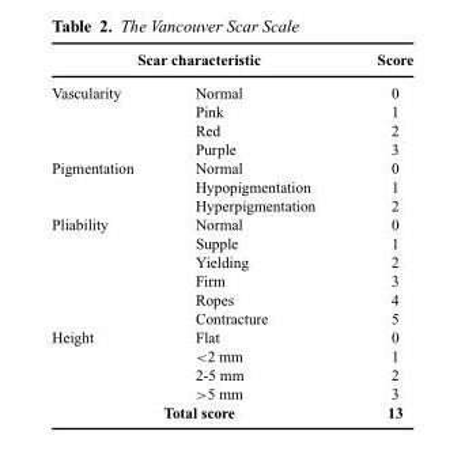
<table><thead><tr><td></td><td>Scar characteristic</td><td>Score</td></tr></thead><tbody><tr><td rowspan="4">Vascularity</td><td>Normal</td><td>0</td></tr><tr><td>Pink</td><td>1</td></tr><tr><td>Red</td><td>2</td></tr><tr><td>Purple</td><td>3</td></tr><tr><td rowspan="3">Pigmentation</td><td>Normal</td><td>0</td></tr><tr><td>Hypopigmentation</td><td>1</td></tr><tr><td>Hyperpigmentation</td><td>2</td></tr><tr><td rowspan="6">Pliability</td><td>Normal</td><td>0</td></tr><tr><td>Supple</td><td>1</td></tr><tr><td>Yielding</td><td>2</td></tr><tr><td>Firm</td><td>3</td></tr><tr><td>Ropes</td><td>4</td></tr><tr><td>Contracture</td><td>5</td></tr><tr><td rowspan="5">Height</td><td>Flat</td><td>0</td></tr><tr><td>&lt;2 mm</td><td>1</td></tr><tr><td>2-5 mm</td><td>2</td></tr><tr><td>&gt;5 mm</td><td>3</td></tr><tr><td>Total score</td><td>13</td></tr></tbody></table>